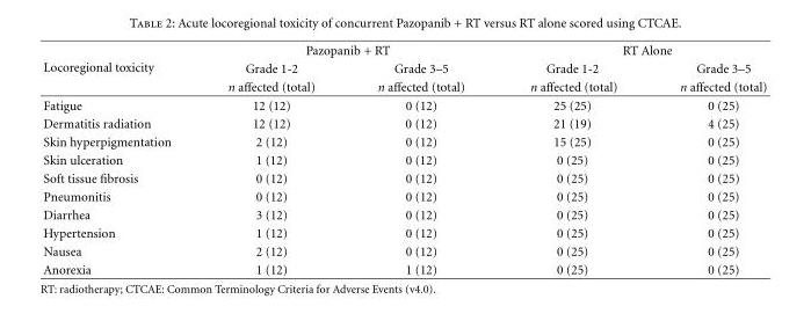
<table><thead><tr><td rowspan="3">Locoregional toxicity</td><td colspan="2">Pazopanib + RT</td><td colspan="2">RT Alone</td></tr><tr><td rowspan="2">Grade 1-2 n affected (total)</td><td rowspan="2">Grade 3–5 n affected (total)</td><td rowspan="2">Grade 1-2 n affected (total)</td><td rowspan="2">Grade 3–5 n affected (total)</td></tr><tr></tr></thead><tbody><tr><td>Fatigue</td><td>12 (12)</td><td>0 (12)</td><td>25 (25)</td><td>0 (25)</td></tr><tr><td>Dermatitis radiation</td><td>12 (12)</td><td>0 (12)</td><td>21 (19)</td><td>4 (25)</td></tr><tr><td>Skin hyperpigmentation</td><td>2 (12)</td><td>0 (12)</td><td>15 (25)</td><td>0 (25)</td></tr><tr><td>Skin ulceration</td><td>1 (12)</td><td>0 (12)</td><td>0 (25)</td><td>0 (25)</td></tr><tr><td>Soft tissue fibrosis</td><td>0 (12)</td><td>0 (12)</td><td>0 (25)</td><td>0 (25)</td></tr><tr><td>Pneumonitis</td><td>0 (12)</td><td>0 (12)</td><td>0 (25)</td><td>0 (25)</td></tr><tr><td>Diarrhea</td><td>3 (12)</td><td>0 (12)</td><td>0 (25)</td><td>0 (25)</td></tr><tr><td>Hypertension</td><td>1 (12)</td><td>0 (12)</td><td>0 (25)</td><td>0 (25)</td></tr><tr><td>Nausea</td><td>2 (12)</td><td>0 (12)</td><td>0 (25)</td><td>0 (25)</td></tr><tr><td>Anorexia</td><td>1 (12)</td><td>1 (12)</td><td>0 (25)</td><td>0 (25)</td></tr></tbody></table>